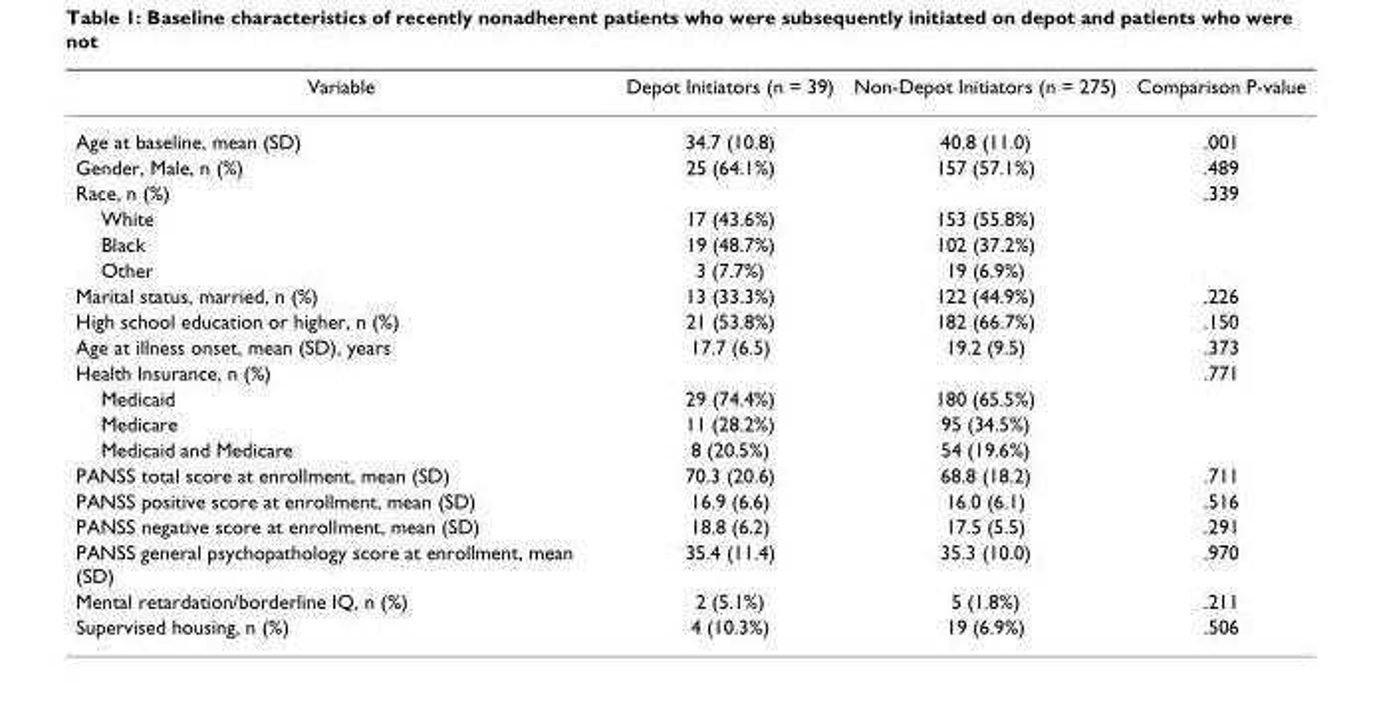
<table><thead><tr><td>Variable</td><td>Depot Initiators (n = 39)</td><td>Non-Depot Initiators (n = 275)</td><td>Comparison P-value</td></tr></thead><tbody><tr><td>Age at baseline, mean (SD)</td><td>34.7 (10.8)</td><td>40.8 (11.0)</td><td>.001</td></tr><tr><td>Gender, Male, n (%)</td><td>25 (64.1%)</td><td>157 (57.1%)</td><td>.489</td></tr><tr><td>Race, n (%)</td><td></td><td></td><td>.339</td></tr><tr><td>White</td><td>17 (43.6%)</td><td>153 (55.8%)</td><td></td></tr><tr><td>Black</td><td>19 (48.7%)</td><td>102 (37.2%)</td><td></td></tr><tr><td>Other</td><td>3 (7.7%)</td><td>19 (6.9%)</td><td></td></tr><tr><td>Marital status, married, n (%)</td><td>13 (33.3%)</td><td>122 (44.9%)</td><td>.226</td></tr><tr><td>High school education or higher, n (%)</td><td>21 (53.8%)</td><td>182 (66.7%)</td><td>.150</td></tr><tr><td>Age at illness onset, mean (SD), years</td><td>17.7 (6.5)</td><td>19.2 (9.5)</td><td>.373</td></tr><tr><td>Health Insurance, n (%)</td><td></td><td></td><td>.771</td></tr><tr><td>Medicaid</td><td>29 (74.4%)</td><td>180 (65.5%)</td><td></td></tr><tr><td>Medicare</td><td>11 (28.2%)</td><td>95 (34.5%)</td><td></td></tr><tr><td>Medicaid and Medicare</td><td>8 (20.5%)</td><td>54 (19.6%)</td><td></td></tr><tr><td>PANSS total score at enrollment, mean (SD)</td><td>70.3 (20.6)</td><td>68.8 (18.2)</td><td>.711</td></tr><tr><td>PANSS positive score at enrollment, mean (SD)</td><td>16.9 (6.6)</td><td>16.0 (6.1)</td><td>.516</td></tr><tr><td>PANSS negative score at enrollment, mean (SD)</td><td>18.8 (6.2)</td><td>17.5 (5.5)</td><td>.291</td></tr><tr><td>PANSS general psychopathology score at enrollment, mean (SD)</td><td>35.4 (11.4)</td><td>35.3 (10.0)</td><td>.970</td></tr><tr><td>Mental retardation/borderline IQ, n (%)</td><td>2 (5.1%)</td><td>5 (1.8%)</td><td>.211</td></tr><tr><td>Supervised housing, n (%)</td><td>4 (10.3%)</td><td>19 (6.9%)</td><td>.506</td></tr></tbody></table>